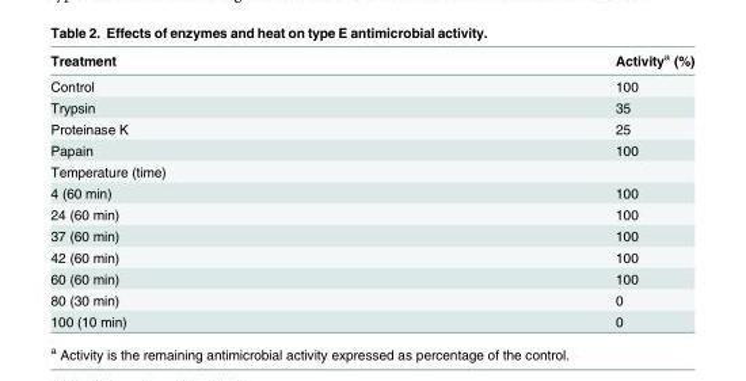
<table><thead><tr><td>Treatment</td><td>Activity<sup>a</sup> (%)</td></tr></thead><tbody><tr><td>Control</td><td>100</td></tr><tr><td>Trypsin</td><td>35</td></tr><tr><td>Proteinase K</td><td>25</td></tr><tr><td>Papain</td><td>100</td></tr><tr><td colspan="2">Temperature (time)</td></tr><tr><td>4 (60 min)</td><td>100</td></tr><tr><td>24 (60 min)</td><td>100</td></tr><tr><td>37 (60 min)</td><td>100</td></tr><tr><td>42 (60 min)</td><td>100</td></tr><tr><td>60 (60 min)</td><td>100</td></tr><tr><td>80 (30 min)</td><td>0</td></tr><tr><td>100 (10 min)</td><td>0</td></tr></tbody></table>